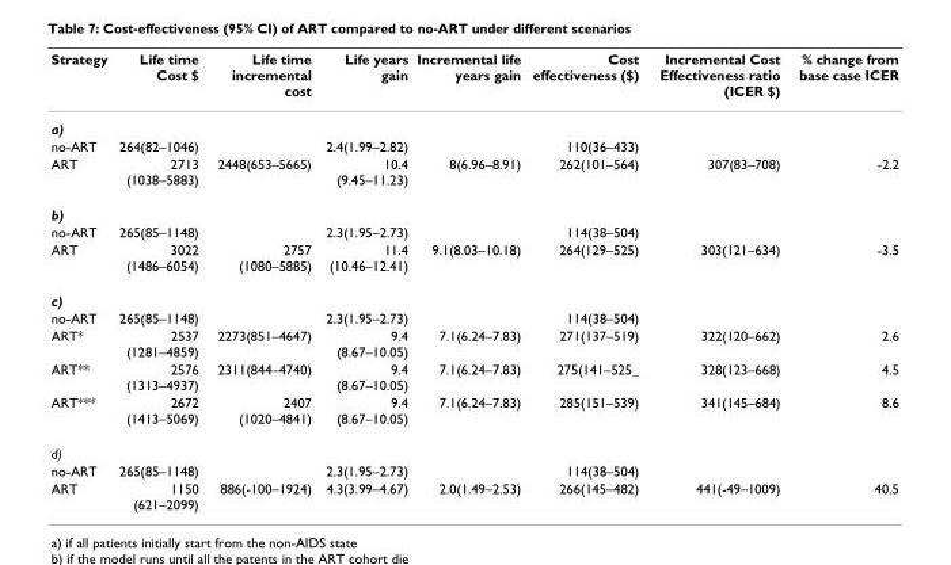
<table><thead><tr><td>Strategy</td><td>Life time Cost $</td><td>Life time incremental cost</td><td>Life years gain</td><td>Incremental life years gain</td><td>Cost effectiveness ($)</td><td>Incremental Cost Effectiveness ratio (ICER $)</td><td>% change from base case ICER</td></tr></thead><tbody><tr><td colspan="8">a)</td></tr><tr><td>no-ART</td><td>264(82–1046)</td><td></td><td>2.4(1.99–2.82)</td><td></td><td>110(36–433)</td><td></td><td></td></tr><tr><td>ART</td><td>2713 (1038–5883)</td><td>2448(653–5665)</td><td>10.4 (9.45–11.23)</td><td>8(6.96–8.91)</td><td>262(101–564)</td><td>307(83–708)</td><td>-2.2</td></tr><tr><td colspan="8">b)</td></tr><tr><td>no-ART</td><td>265(85–1148)</td><td></td><td>2.3(1.95–2.73)</td><td></td><td>114(38–504)</td><td></td><td></td></tr><tr><td>ART</td><td>3022 (1486–6054)</td><td>2757 (1080–5885)</td><td>11.4 (10.46–12.41)</td><td>9.1(8.03–10.18)</td><td>264(129–525)</td><td>303(121–634)</td><td>-3.5</td></tr><tr><td colspan="8">c)</td></tr><tr><td>no-ART</td><td>265(85–1148)</td><td></td><td>2.3(1.95–2.73)</td><td></td><td>114(38–504)</td><td></td><td></td></tr><tr><td>ART*</td><td>2537 (1281–4859)</td><td>2273(851–4647)</td><td>9.4 (8.67–10.05)</td><td>7.1(6.24–7.83)</td><td>271(137–519)</td><td>322(120–662)</td><td>2.6</td></tr><tr><td>ART**</td><td>2576 (1313–4937)</td><td>2311(844–4740)</td><td>9.4 (8.67–10.05)</td><td>7.1(6.24–7.83)</td><td>275(141–525_</td><td>328(123–668)</td><td>4.5</td></tr><tr><td>ART***</td><td>2672 (1413–5069)</td><td>2407 (1020–4841)</td><td>9.4 (8.67–10.05)</td><td>7.1(6.24–7.83)</td><td>285(151–539)</td><td>341(145–684)</td><td>8.6</td></tr><tr><td colspan="8">d)</td></tr><tr><td>no-ART</td><td>265(85–1148)</td><td></td><td>2.3(1.95–2.73)</td><td></td><td>114(38–504)</td><td></td><td></td></tr><tr><td>ART</td><td>1150 (621–2099)</td><td>886(-100–1924)</td><td>4.3(3.99–4.67)</td><td>2.0(1.49–2.53)</td><td>266(145–482)</td><td>441(-49–1009)</td><td>40.5</td></tr></tbody></table>